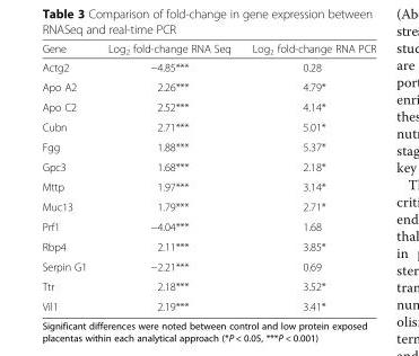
<table><thead><tr><td>Gene</td><td>Log<sub>2</sub> fold-change RNA Seq</td><td>Log<sub>2</sub> fold-change RNA PCR</td></tr></thead><tbody><tr><td>Actg2</td><td>−4.85***</td><td>0.28</td></tr><tr><td>Apo A2</td><td>2.26***</td><td>4.79*</td></tr><tr><td>Apo C2</td><td>2.52***</td><td>4.14*</td></tr><tr><td>Cubn</td><td>2.71***</td><td>5.01*</td></tr><tr><td>Fgg</td><td>1.88***</td><td>5.37*</td></tr><tr><td>Gpc3</td><td>1.68***</td><td>2.18*</td></tr><tr><td>Mttp</td><td>1.97***</td><td>3.14*</td></tr><tr><td>Muc13</td><td>1.79***</td><td>2.71*</td></tr><tr><td>Prf1</td><td>−4.04***</td><td>1.68</td></tr><tr><td>Rbp4</td><td>2.11***</td><td>3.85*</td></tr><tr><td>Serpin G1</td><td>−2.21***</td><td>0.69</td></tr><tr><td>Ttr</td><td>2.18***</td><td>3.52*</td></tr><tr><td>Vil1</td><td>2.19***</td><td>3.41*</td></tr></tbody></table>